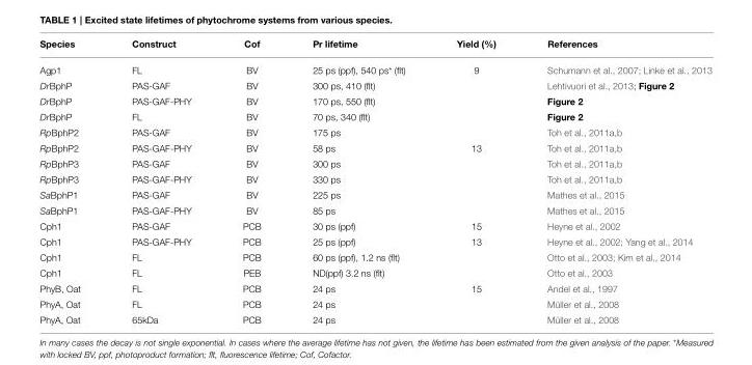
<table><thead><tr><td>Species</td><td>Construct</td><td>Cof</td><td>Pr lifetime</td><td>Yield (%)</td><td>References</td></tr></thead><tbody><tr><td>Agp1</td><td>FL</td><td>BV</td><td>25 ps (ppf), 540 ps* (flt)</td><td>9</td><td>Schumann et al., 2007; Linke et al., 2013</td></tr><tr><td>DrBphP</td><td>PAS-GAF</td><td>BV</td><td>300 ps, 410 (flt)</td><td></td><td>Lehtivuori et al., 2013; Figure 2</td></tr><tr><td>DrBphP</td><td>PAS-GAF-PHY</td><td>BV</td><td>170 ps, 550 (flt)</td><td></td><td>Figure 2</td></tr><tr><td>DrBphP</td><td>FL</td><td>BV</td><td>70 ps, 340 (flt)</td><td></td><td>Figure 2</td></tr><tr><td>RpBphP2</td><td>PAS-GAF</td><td>BV</td><td>175 ps</td><td></td><td>Toh et al., 2011a,b</td></tr><tr><td>RpBphP2</td><td>PAS-GAF-PHY</td><td>BV</td><td>58 ps</td><td>13</td><td>Toh et al., 2011a,b</td></tr><tr><td>RpBphP3</td><td>PAS-GAF</td><td>BV</td><td>300 ps</td><td></td><td>Toh et al., 2011a,b</td></tr><tr><td>RpBphP3</td><td>PAS-GAF-PHY</td><td>BV</td><td>330 ps</td><td></td><td>Toh et al., 2011a,b</td></tr><tr><td>SaBphP1</td><td>PAS-GAF</td><td>BV</td><td>225 ps</td><td></td><td>Mathes et al., 2015</td></tr><tr><td>SaBphP1</td><td>PAS-GAF-PHY</td><td>BV</td><td>85 ps</td><td></td><td>Mathes et al., 2015</td></tr><tr><td>Cph1</td><td>PAS-GAF</td><td>PCB</td><td>30 ps (ppf)</td><td>15</td><td>Heyne et al., 2002</td></tr><tr><td>Cph1</td><td>PAS-GAF-PHY</td><td>PCB</td><td>25 ps (ppf)</td><td>13</td><td>Heyne et al., 2002; Yang et al., 2014</td></tr><tr><td>Cph1</td><td>FL</td><td>PCB</td><td>60 ps (ppf), 1.2 ns (flt)</td><td></td><td>Otto et al., 2003; Kim et al., 2014</td></tr><tr><td>Cph1</td><td>FL</td><td>PEB</td><td>ND(ppf) 3.2 ns (flt)</td><td></td><td>Otto et al., 2003</td></tr><tr><td>PhyB, Oat</td><td>FL</td><td>PCB</td><td>24 ps</td><td>15</td><td>Andel et al., 1997</td></tr><tr><td>PhyA, Oat</td><td>FL</td><td>PCB</td><td>24 ps</td><td></td><td>Müller et al., 2008</td></tr><tr><td>PhyA, Oat</td><td>65kDa</td><td>PCB</td><td>24 ps</td><td></td><td>Müller et al., 2008</td></tr></tbody></table>